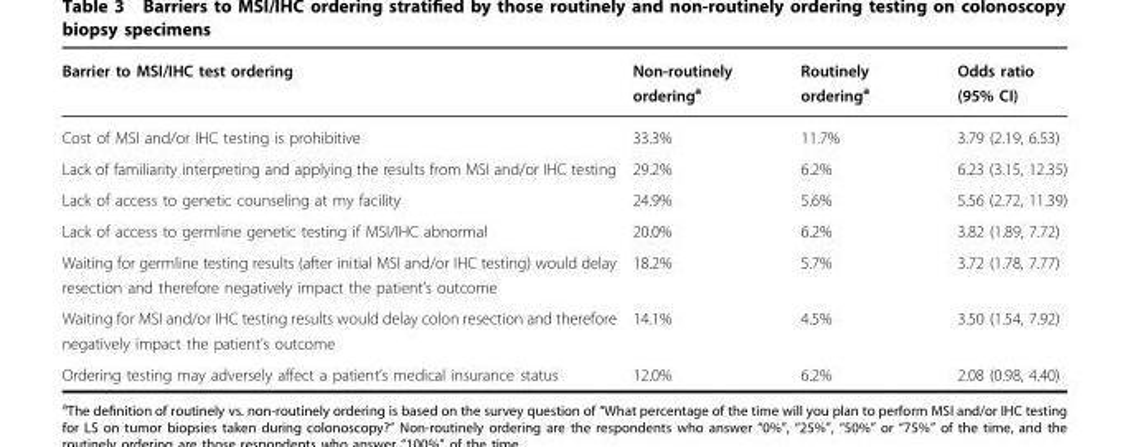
<table><thead><tr><td>Barrier to MSI/IHC test ordering</td><td>Non-routinely ordering<sup>a</sup></td><td>Routinely ordering<sup>a</sup></td><td>Odds ratio (95% CI)</td></tr></thead><tbody><tr><td>Cost of MSI and/or IHC testing is prohibitive</td><td>33.3%</td><td>11.7%</td><td>3.79 (2.19, 6.53)</td></tr><tr><td>Lack of familiarity interpreting and applying the results from MSI and/or IHC testing</td><td>29.2%</td><td>6.2%</td><td>6.23 (3.15, 12.35)</td></tr><tr><td>Lack of access to genetic counseling at my facility</td><td>24.9%</td><td>5.6%</td><td>5.56 (2.72, 11.39)</td></tr><tr><td>Lack of access to germline genetic testing if MSI/IHC abnormal</td><td>20.0%</td><td>6.2%</td><td>3.82 (1.89, 7.72)</td></tr><tr><td>Waiting for germline testing results (after initial MSI and/or IHC testing) would delay resection and therefore negatively impact the patient’s outcome</td><td>18.2%</td><td>5.7%</td><td>3.72 (1.78, 7.77)</td></tr><tr><td>Waiting for MSI and/or IHC testing results would delay colon resection and therefore negatively impact the patient’s outcome</td><td>14.1%</td><td>4.5%</td><td>3.50 (1.54, 7.92)</td></tr><tr><td>Ordering testing may adversely affect a patient’s medical insurance status</td><td>12.0%</td><td>6.2%</td><td>2.08 (0.98, 4.40)</td></tr></tbody></table>